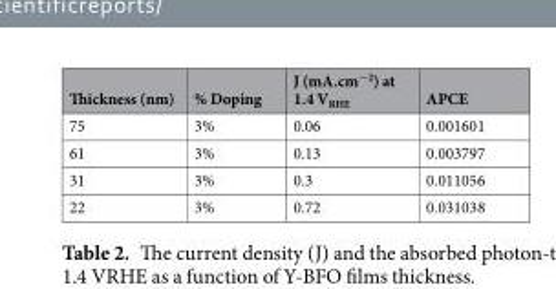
<table><thead><tr><td>Thickness (nm)</td><td>% Doping</td><td>J (mA.cm<sup>−2</sup>) at 1.4 V<sub>RHE</sub></td><td>APCE</td></tr></thead><tbody><tr><td>75</td><td>3%</td><td>0.06</td><td>0.001601</td></tr><tr><td>61</td><td>3%</td><td>0.13</td><td>0.003797</td></tr><tr><td>31</td><td>3%</td><td>0.3</td><td>0.011056</td></tr><tr><td>22</td><td>3%</td><td>0.72</td><td>0.031038</td></tr></tbody></table>